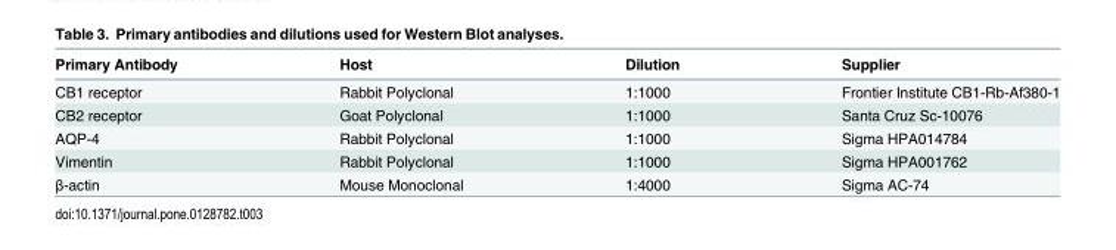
<table><thead><tr><td>Primary Antibody</td><td>Host</td><td>Dilution</td><td>Supplier</td></tr></thead><tbody><tr><td>CB1 receptor</td><td>Rabbit Polyclonal</td><td>1:1000</td><td>Frontier Institute CB1-Rb-Af380-1</td></tr><tr><td>CB2 receptor</td><td>Goat Polyclonal</td><td>1:1000</td><td>Santa Cruz Sc-10076</td></tr><tr><td>AQP-4</td><td>Rabbit Polyclonal</td><td>1:1000</td><td>Sigma HPA014784</td></tr><tr><td>Vimentin</td><td>Rabbit Polyclonal</td><td>1:1000</td><td>Sigma HPA001762</td></tr><tr><td>β-actin</td><td>Mouse Monoclonal</td><td>1:4000</td><td>Sigma AC-74</td></tr></tbody></table>